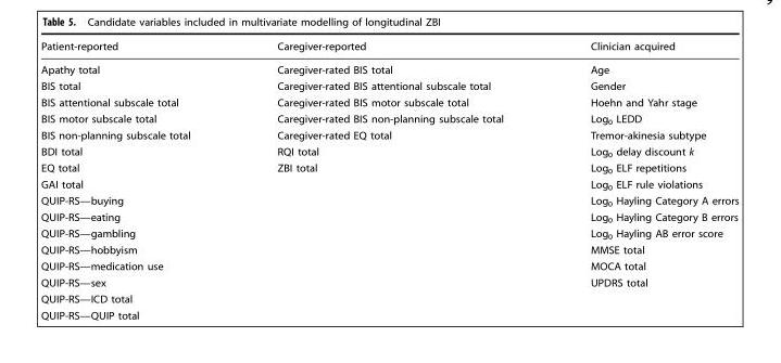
<table><thead><tr><td>Patient-reported</td><td>Caregiver-reported</td><td>Clinician acquired</td></tr></thead><tbody><tr><td>Apathy total</td><td>Caregiver-rated BIS total</td><td>Age</td></tr><tr><td>BIS total</td><td>Caregiver-rated BIS attentional subscale total</td><td>Gender</td></tr><tr><td>BIS attentional subscale total</td><td>Caregiver-rated BIS motor subscale total</td><td>Hoehn and Yahr stage</td></tr><tr><td>BIS motor subscale total</td><td>Caregiver-rated BIS non-planning subscale total</td><td>Log<sub>0</sub> LEDD</td></tr><tr><td>BIS non-planning subscale total</td><td>Caregiver-rated EQ total</td><td>Tremor-akinesia subtype</td></tr><tr><td>BDI total</td><td>RQI total</td><td>Log<sub>0</sub> delay discount k</td></tr><tr><td>EQ total</td><td>ZBI total</td><td>Log<sub>0</sub> ELF repetitions</td></tr><tr><td>GAI total</td><td></td><td>Log<sub>0</sub> ELF rule violations</td></tr><tr><td>QUIP-RS—buying</td><td></td><td>Log<sub>0</sub> Hayling Category A errors</td></tr><tr><td>QUIP-RS—eating</td><td></td><td>Log<sub>0</sub> Hayling Category B errors</td></tr><tr><td>QUIP-RS—gambling</td><td></td><td>Log<sub>0</sub> Hayling AB error score</td></tr><tr><td>QUIP-RS—hobbyism</td><td></td><td>MMSE total</td></tr><tr><td>QUIP-RS—medication use</td><td></td><td>MOCA total</td></tr><tr><td>QUIP-RS—sex</td><td></td><td>UPDRS total</td></tr><tr><td colspan="3">QUIP-RS—ICD total</td></tr><tr><td>QUIP-RS—QUIP total</td><td></td><td></td></tr></tbody></table>